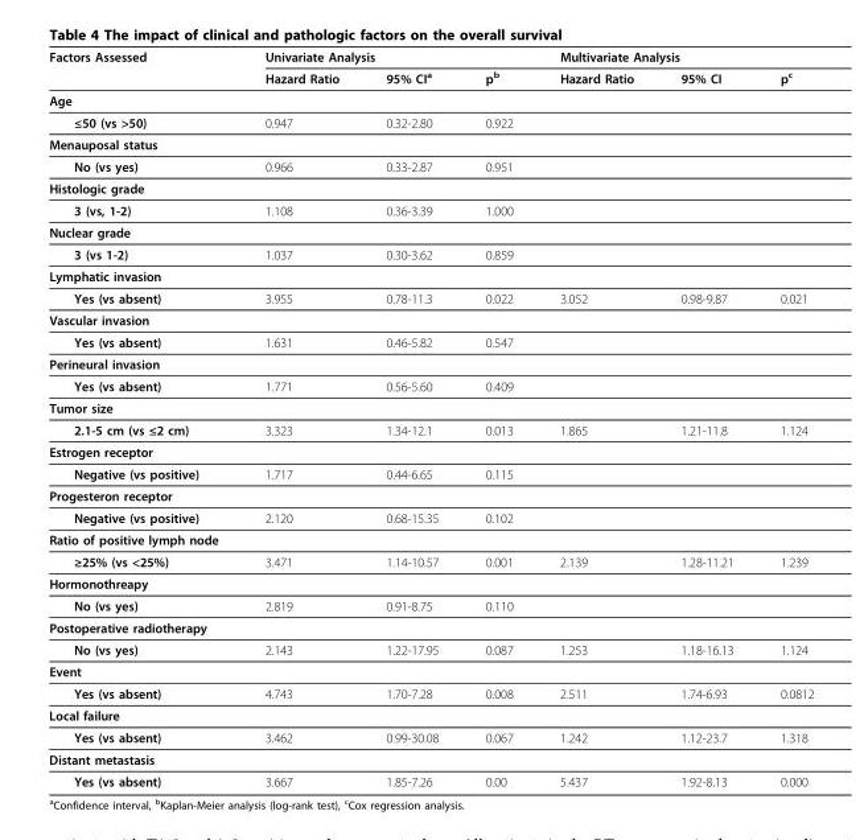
<table><thead><tr><td rowspan="2">Factors Assessed</td><td colspan="3">Univariate Analysis</td><td colspan="3">Multivariate Analysis</td></tr><tr><td>Hazard Ratio</td><td>95% CI<sup>a</sup></td><td>p<sup>b</sup></td><td>Hazard Ratio</td><td>95% CI</td><td>p<sup>c</sup></td></tr></thead><tbody><tr><td colspan="7">Age</td></tr><tr><td>≤50 (vs &gt;50)</td><td>0.947</td><td>0.32-2.80</td><td>0.922</td><td></td><td></td><td></td></tr><tr><td colspan="7">Menauposal status</td></tr><tr><td>No (vs yes)</td><td>0.966</td><td>0.33-2.87</td><td>0.951</td><td></td><td></td><td></td></tr><tr><td colspan="7">Histologic grade</td></tr><tr><td>3 (vs, 1-2)</td><td>1.108</td><td>0.36-3.39</td><td>1.000</td><td></td><td></td><td></td></tr><tr><td colspan="7">Nuclear grade</td></tr><tr><td>3 (vs 1-2)</td><td>1.037</td><td>0.30-3.62</td><td>0.859</td><td></td><td></td><td></td></tr><tr><td colspan="7">Lymphatic invasion</td></tr><tr><td>Yes (vs absent)</td><td>3.955</td><td>0.78-11.3</td><td>0.022</td><td>3.052</td><td>0.98-9.87</td><td>0.021</td></tr><tr><td colspan="7">Vascular invasion</td></tr><tr><td>Yes (vs absent)</td><td>1.631</td><td>0.46-5.82</td><td>0.547</td><td></td><td></td><td></td></tr><tr><td colspan="7">Perineural invasion</td></tr><tr><td>Yes (vs absent)</td><td>1.771</td><td>0.56-5.60</td><td>0.409</td><td></td><td></td><td></td></tr><tr><td colspan="7">Tumor size</td></tr><tr><td>2.1-5 cm (vs ≤2 cm)</td><td>3.323</td><td>1.34-12.1</td><td>0.013</td><td>1.865</td><td>1.21-11.8</td><td>1.124</td></tr><tr><td colspan="7">Estrogen receptor</td></tr><tr><td>Negative (vs positive)</td><td>1.717</td><td>0.44-6.65</td><td>0.115</td><td></td><td></td><td></td></tr><tr><td colspan="7">Progesteron receptor</td></tr><tr><td>Negative (vs positive)</td><td>2.120</td><td>0.68-15.35</td><td>0.102</td><td></td><td></td><td></td></tr><tr><td colspan="7">Ratio of positive lymph node</td></tr><tr><td>≥25% (vs &lt;25%)</td><td>3.471</td><td>1.14-10.57</td><td>0.001</td><td>2.139</td><td>1.28-11.21</td><td>1.239</td></tr><tr><td colspan="7">Hormonothreapy</td></tr><tr><td>No (vs yes)</td><td>2.819</td><td>0.91-8.75</td><td>0.110</td><td></td><td></td><td></td></tr><tr><td colspan="7">Postoperative radiotherapy</td></tr><tr><td>No (vs yes)</td><td>2.143</td><td>1.22-17.95</td><td>0.087</td><td>1.253</td><td>1.18-16.13</td><td>1.124</td></tr><tr><td colspan="7">Event</td></tr><tr><td>Yes (vs absent)</td><td>4.743</td><td>1.70-7.28</td><td>0.008</td><td>2.511</td><td>1.74-6.93</td><td>0.0812</td></tr><tr><td colspan="7">Local failure</td></tr><tr><td>Yes (vs absent)</td><td>3.462</td><td>0.99-30.08</td><td>0.067</td><td>1.242</td><td>1.12-23.7</td><td>1.318</td></tr><tr><td colspan="7">Distant metastasis</td></tr><tr><td>Yes (vs absent)</td><td>3.667</td><td>1.85-7.26</td><td>0.00</td><td>5.437</td><td>1.92-8.13</td><td>0.000</td></tr></tbody></table>